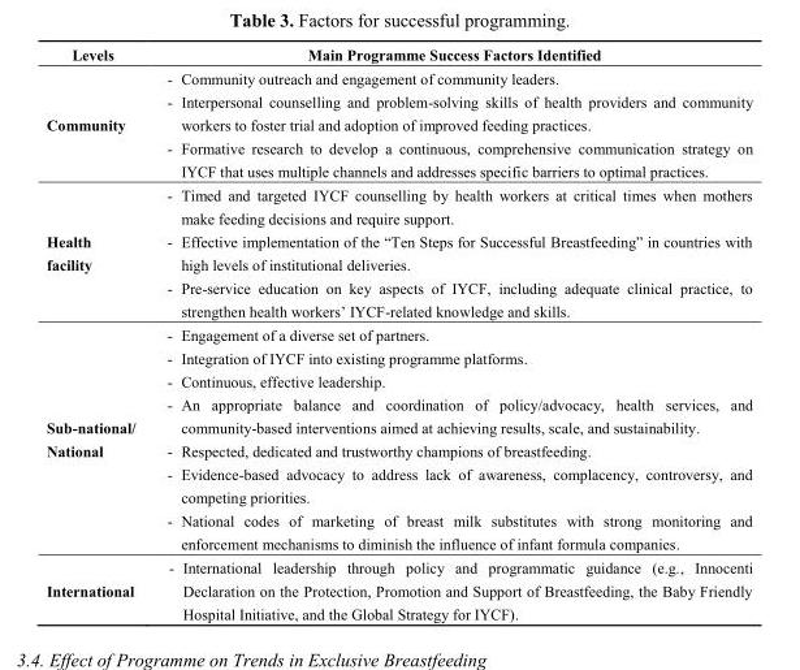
<table><thead><tr><td>Levels</td><td>Main Programme Success Factors Identified</td></tr></thead><tbody><tr><td>Community</td><td>- Community outreach and engagement of community leaders. - Interpersonal counselling and problem-solving skills of health providers and community workers to foster trial and adoption of improved feeding practices. - Formative research to develop a continuous, comprehensive communication strategy on IYCF that uses multiple channels and addresses specific barriers to optimal practices.</td></tr><tr><td>Health facility</td><td>- Timed and targeted IYCF counselling by health workers at critical times when mothers make feeding decisions and require support. - Effective implementation of the “Ten Steps for Successful Breastfeeding” in countries with high levels of institutional deliveries. - Pre-service education on key aspects of IYCF, including adequate clinical practice, to strengthen health workers’ IYCF-related knowledge and skills.</td></tr><tr><td>Sub-national/ National</td><td>- Engagement of a diverse set of partners. - Integration of IYCF into existing programme platforms. - Continuous, effective leadership. - An appropriate balance and coordination of policy/advocacy, health services, and community-based interventions aimed at achieving results, scale, and sustainability. - Respected, dedicated and trustworthy champions of breastfeeding. - Evidence-based advocacy to address lack of awareness, complacency, controversy, and competing priorities. - National codes of marketing of breast milk substitutes with strong monitoring and enforcement mechanisms to diminish the influence of infant formula companies.</td></tr><tr><td>International</td><td>- International leadership through policy and programmatic guidance (e.g., Innocenti Declaration on the Protection, Promotion and Support of Breastfeeding, the Baby Friendly Hospital Initiative, and the Global Strategy for IYCF).</td></tr></tbody></table>